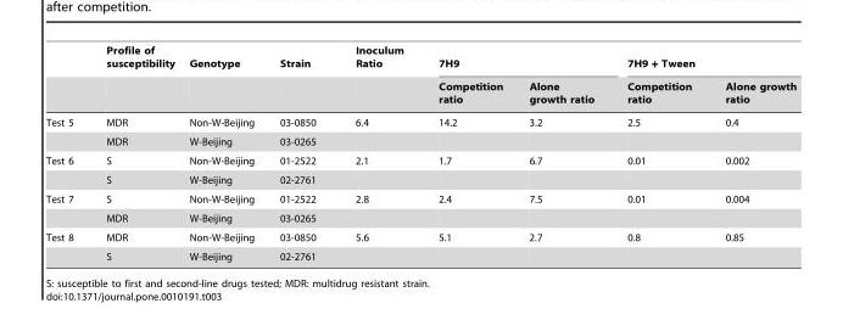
<table><thead><tr><td rowspan="2"></td><td rowspan="2">Profile of susceptibility</td><td rowspan="2">Genotype</td><td rowspan="2">Strain</td><td rowspan="2">Inoculum Ratio</td><td colspan="2">7H9</td><td colspan="2">7H9 + Tween</td></tr><tr><td>Competition ratio</td><td>Alone growth ratio</td><td>Competition ratio</td><td>Alone growth ratio</td></tr></thead><tbody><tr><td rowspan="2">Test 5</td><td>MDR</td><td>Non-W-Beijing</td><td>03-0850</td><td>6.4</td><td>14.2</td><td>3.2</td><td>2.5</td><td>0.4</td></tr><tr><td>MDR</td><td>W-Beijing</td><td>03-0265</td><td></td><td></td><td></td><td></td><td></td></tr><tr><td rowspan="2">Test 6</td><td>S</td><td>Non-W-Beijing</td><td>01-2522</td><td>2.1</td><td>1.7</td><td>6.7</td><td>0.01</td><td>0.002</td></tr><tr><td>S</td><td>W-Beijing</td><td>02-2761</td><td></td><td></td><td></td><td></td><td></td></tr><tr><td rowspan="2">Test 7</td><td>S</td><td>Non-W-Beijing</td><td>01-2522</td><td>2.8</td><td>2.4</td><td>7.5</td><td>0.01</td><td>0.004</td></tr><tr><td>MDR</td><td>W-Beijing</td><td>03-0265</td><td></td><td></td><td></td><td></td><td></td></tr><tr><td rowspan="2">Test 8</td><td>MDR</td><td>Non-W-Beijing</td><td>03-0850</td><td>5.6</td><td>5.1</td><td>2.7</td><td>0.8</td><td>0.85</td></tr><tr><td>S</td><td>W-Beijing</td><td>02-2761</td><td></td><td></td><td></td><td></td><td></td></tr></tbody></table>